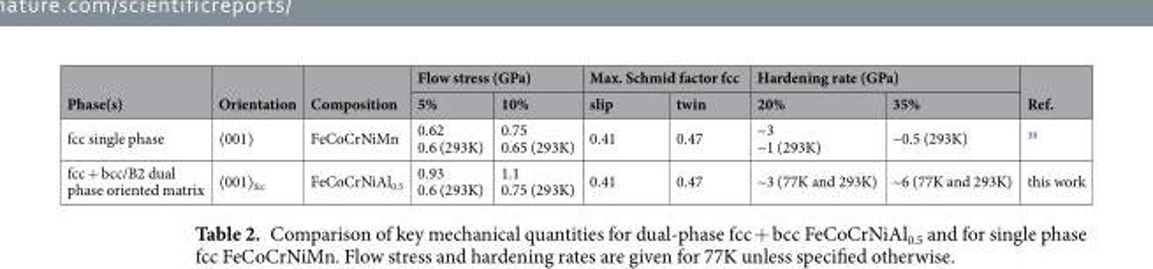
<table><thead><tr><td rowspan="2">Phase(s)</td><td rowspan="2">Orientation</td><td rowspan="2">Composition</td><td colspan="2">Flow stress (GPa)</td><td colspan="2">Max. Schmid factor fcc</td><td colspan="2">Hardening rate (GPa)</td><td rowspan="2">Ref.</td></tr><tr><td>5%</td><td>10%</td><td>slip</td><td>twin</td><td>20%</td><td>35%</td></tr></thead><tbody><tr><td>fcc single phase</td><td>〈001〉</td><td>FeCoCrNiMn</td><td>0.62 0.6 (293K)</td><td>0.75 0.65 (293K)</td><td>0.41</td><td>0.47</td><td>~3 ~1 (293K)</td><td>~0.5 (293K)</td><td><sup>30</sup></td></tr><tr><td>fcc + bcc/B2 dual phase oriented matrix</td><td>〈001〉<sub>fcc</sub></td><td>FeCoCrNiAl<sub>0.5</sub></td><td>0.93 0.6 (293K)</td><td>1.1 0.75 (293K)</td><td>0.41</td><td>0.47</td><td>~3 (77K and 293K)</td><td>~6 (77K and 293K)</td><td>this work</td></tr></tbody></table>